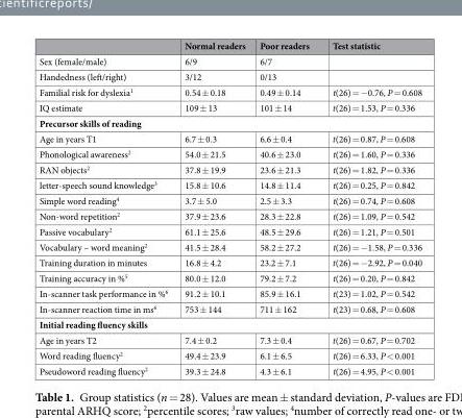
<table><thead><tr><td></td><td>Normal readers</td><td>Poor readers</td><td>Test statistic</td></tr></thead><tbody><tr><td>Sex (female/male)</td><td>6/9</td><td>6/7</td><td></td></tr><tr><td>Handedness (left/right)</td><td>3/12</td><td>0/13</td><td></td></tr><tr><td>Familial risk for dyslexia<sup>1</sup></td><td>0.54 ± 0.18</td><td>0.49 ± 0.14</td><td>t(26) = −0.76, P = 0.608</td></tr><tr><td>IQ estimate</td><td>109 ± 13</td><td>101 ± 14</td><td>t(26) = 1.53, P = 0.336</td></tr><tr><td colspan="4">Precursor skills of reading</td></tr><tr><td>Age in years T1</td><td>6.7 ± 0.3</td><td>6.6 ± 0.4</td><td>t(26) = 0.87, P = 0.608</td></tr><tr><td>Phonological awareness<sup>2</sup></td><td>54.0 ± 21.5</td><td>40.6 ± 23.0</td><td>t(26) = 1.60, P = 0.336</td></tr><tr><td>RAN objects<sup>2</sup></td><td>37.8 ± 19.9</td><td>23.6 ± 21.3</td><td>t(26) = 1.82, P = 0.336</td></tr><tr><td>letter-speech sound knowledge<sup>3</sup></td><td>15.8 ± 10.6</td><td>14.8 ± 11.4</td><td>t(26) = 0.25, P = 0.842</td></tr><tr><td>Simple word reading<sup>4</sup></td><td>3.7 ± 5.0</td><td>2.5 ± 3.3</td><td>t(26) = 0.74, P = 0.608</td></tr><tr><td>Non-word repetition<sup>2</sup></td><td>37.9 ± 23.6</td><td>28.3 ± 22.8</td><td>t(26) = 1.09, P = 0.542</td></tr><tr><td>Passive vocabulary<sup>2</sup></td><td>61.1 ± 25.6</td><td>48.5 ± 29.6</td><td>t(26) = 1.21, P = 0.501</td></tr><tr><td>Vocabulary – word meaning<sup>2</sup></td><td>41.5 ± 28.4</td><td>58.2 ± 27.2</td><td>t(26) = −1.58, P = 0.336</td></tr><tr><td>Training duration in minutes</td><td>16.8 ± 4.2</td><td>23.2 ± 7.1</td><td>t(26) = −2.92, P = 0.040</td></tr><tr><td>Training accuracy in %<sup>5</sup></td><td>80.0 ± 12.0</td><td>79.2 ± 7.2</td><td>t(26) = 0.20, P = 0.842</td></tr><tr><td>In-scanner task performance in %<sup>6</sup></td><td>91.2 ± 10.1</td><td>85.9 ± 16.1</td><td>t(23) = 1.02, P = 0.542</td></tr><tr><td>In-scanner reaction time in ms<sup>6</sup></td><td>753 ± 144</td><td>711 ± 162</td><td>t(23) = 0.68, P = 0.608</td></tr><tr><td colspan="4">Initial reading fluency skills</td></tr><tr><td>Age in years T2</td><td>7.4 ± 0.2</td><td>7.3 ± 0.4</td><td>t(26) = 0.67, P = 0.702</td></tr><tr><td>Word reading fluency<sup>2</sup></td><td>49.4 ± 23.9</td><td>6.1 ± 6.5</td><td>t(26) = 6.33, P &lt; 0.001</td></tr><tr><td>Pseudoword reading fluency<sup>2</sup></td><td>39.3 ± 24.8</td><td>4.3 ± 6.1</td><td>t(26) = 4.95, P &lt; 0.001</td></tr></tbody></table>